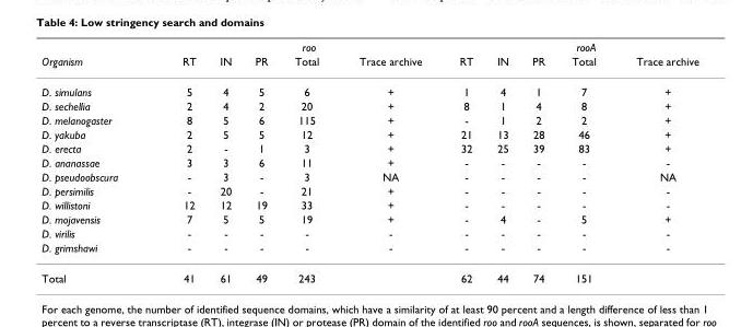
<table><thead><tr><td rowspan="2">Organism</td><td colspan="5">roo</td><td colspan="5">rooA</td></tr><tr><td>RT</td><td>IN</td><td>PR</td><td>Total</td><td>Trace archive</td><td>RT</td><td>IN</td><td>PR</td><td>Total</td><td>Trace archive</td></tr></thead><tbody><tr><td>D. simulans</td><td>5</td><td>4</td><td>5</td><td>6</td><td>+</td><td>1</td><td>4</td><td>1</td><td>7</td><td>+</td></tr><tr><td>D. sechellia</td><td>2</td><td>4</td><td>2</td><td>20</td><td>+</td><td>8</td><td>1</td><td>4</td><td>8</td><td>+</td></tr><tr><td>D. melanogaster</td><td>8</td><td>5</td><td>6</td><td>115</td><td>+</td><td>-</td><td>1</td><td>2</td><td>2</td><td>+</td></tr><tr><td>D. yakuba</td><td>2</td><td>5</td><td>5</td><td>12</td><td>+</td><td>21</td><td>13</td><td>28</td><td>46</td><td>+</td></tr><tr><td>D. erecta</td><td>2</td><td>-</td><td>1</td><td>3</td><td>+</td><td>32</td><td>25</td><td>39</td><td>83</td><td>+</td></tr><tr><td>D. ananassae</td><td>3</td><td>3</td><td>6</td><td>11</td><td>+</td><td>-</td><td>-</td><td>-</td><td>-</td><td>-</td></tr><tr><td>D. pseudoobscura</td><td>-</td><td>3</td><td>-</td><td>3</td><td>NA</td><td>-</td><td>-</td><td>-</td><td>-</td><td>NA</td></tr><tr><td>D. persimilis</td><td>-</td><td>20</td><td>-</td><td>21</td><td>+</td><td>-</td><td>-</td><td>-</td><td>-</td><td>-</td></tr><tr><td>D. willistoni</td><td>12</td><td>12</td><td>19</td><td>33</td><td>+</td><td>-</td><td>-</td><td>-</td><td>-</td><td>-</td></tr><tr><td>D. mojavensis</td><td>7</td><td>5</td><td>5</td><td>19</td><td>+</td><td>-</td><td>4</td><td>-</td><td>5</td><td>+</td></tr><tr><td>D. virilis</td><td>-</td><td>-</td><td>-</td><td>-</td><td>-</td><td>-</td><td>-</td><td>-</td><td>-</td><td>-</td></tr><tr><td>D. grimshawi</td><td>-</td><td>-</td><td>-</td><td>-</td><td>-</td><td>-</td><td>-</td><td>-</td><td>-</td><td>-</td></tr><tr><td>Total</td><td>41</td><td>61</td><td>49</td><td>243</td><td></td><td>62</td><td>44</td><td>74</td><td>151</td><td></td></tr></tbody></table>